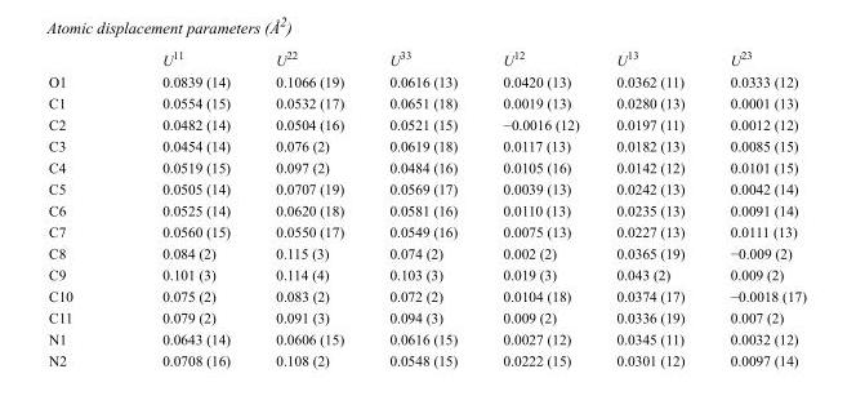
<table><thead><tr><td></td><td>U<sup>11</sup></td><td>U<sup>22</sup></td><td>U<sup>33</sup></td><td>U<sup>12</sup></td><td>U<sup>13</sup></td><td>U<sup>23</sup></td></tr></thead><tbody><tr><td>O1</td><td>0.0839 (14)</td><td>0.1066 (19)</td><td>0.0616 (13)</td><td>0.0420 (13)</td><td>0.0362 (11)</td><td>0.0333 (12)</td></tr><tr><td>C1</td><td>0.0554 (15)</td><td>0.0532 (17)</td><td>0.0651 (18)</td><td>0.0019 (13)</td><td>0.0280 (13)</td><td>0.0001 (13)</td></tr><tr><td>C2</td><td>0.0482 (14)</td><td>0.0504 (16)</td><td>0.0521 (15)</td><td>−0.0016 (12)</td><td>0.0197 (11)</td><td>0.0012 (12)</td></tr><tr><td>C3</td><td>0.0454 (14)</td><td>0.076 (2)</td><td>0.0619 (18)</td><td>0.0117 (13)</td><td>0.0182 (13)</td><td>0.0085 (15)</td></tr><tr><td>C4</td><td>0.0519 (15)</td><td>0.097 (2)</td><td>0.0484 (16)</td><td>0.0105 (16)</td><td>0.0142 (12)</td><td>0.0101 (15)</td></tr><tr><td>C5</td><td>0.0505 (14)</td><td>0.0707 (19)</td><td>0.0569 (17)</td><td>0.0039 (13)</td><td>0.0242 (13)</td><td>0.0042 (14)</td></tr><tr><td>C6</td><td>0.0525 (14)</td><td>0.0620 (18)</td><td>0.0581 (16)</td><td>0.0110 (13)</td><td>0.0235 (13)</td><td>0.0091 (14)</td></tr><tr><td>C7</td><td>0.0560 (15)</td><td>0.0550 (17)</td><td>0.0549 (16)</td><td>0.0075 (13)</td><td>0.0227 (13)</td><td>0.0111 (13)</td></tr><tr><td>C8</td><td>0.084 (2)</td><td>0.115 (3)</td><td>0.074 (2)</td><td>0.002 (2)</td><td>0.0365 (19)</td><td>−0.009 (2)</td></tr><tr><td>C9</td><td>0.101 (3)</td><td>0.114 (4)</td><td>0.103 (3)</td><td>0.019 (3)</td><td>0.043 (2)</td><td>0.009 (2)</td></tr><tr><td>C10</td><td>0.075 (2)</td><td>0.083 (2)</td><td>0.072 (2)</td><td>0.0104 (18)</td><td>0.0374 (17)</td><td>−0.0018 (17)</td></tr><tr><td>C11</td><td>0.079 (2)</td><td>0.091 (3)</td><td>0.094 (3)</td><td>0.009 (2)</td><td>0.0336 (19)</td><td>0.007 (2)</td></tr><tr><td>N1</td><td>0.0643 (14)</td><td>0.0606 (15)</td><td>0.0616 (15)</td><td>0.0027 (12)</td><td>0.0345 (11)</td><td>0.0032 (12)</td></tr><tr><td>N2</td><td>0.0708 (16)</td><td>0.108 (2)</td><td>0.0548 (15)</td><td>0.0222 (15)</td><td>0.0301 (12)</td><td>0.0097 (14)</td></tr></tbody></table>